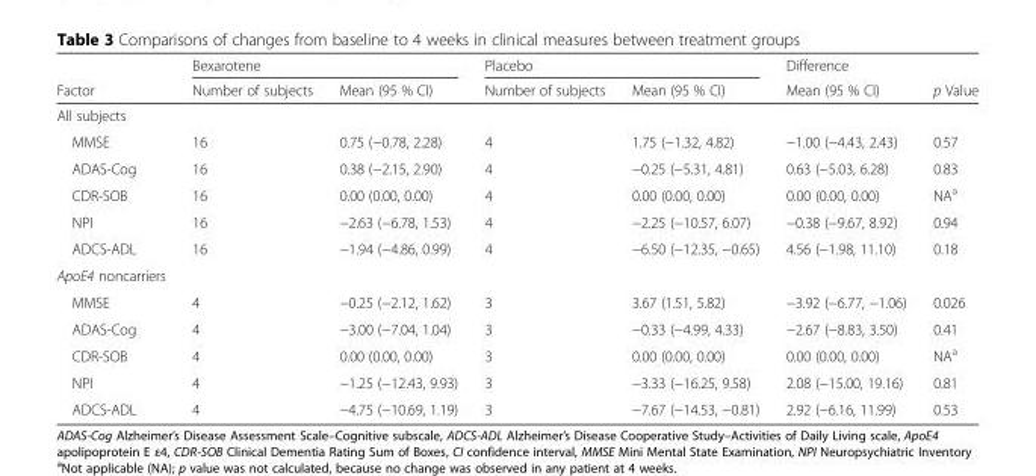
<table><thead><tr><td rowspan="2">Factor</td><td colspan="2">Bexarotene</td><td colspan="2">Placebo</td><td rowspan="2">Difference Mean (95 % CI)</td><td rowspan="2">p Value</td></tr><tr><td>Number of subjects</td><td>Mean (95 % CI)</td><td>Number of subjects</td><td>Mean (95 % CI)</td></tr></thead><tbody><tr><td colspan="7">All subjects</td></tr><tr><td>MMSE</td><td>16</td><td>0.75 (−0.78, 2.28)</td><td>4</td><td>1.75 (−1.32, 4.82)</td><td>−1.00 (−4.43, 2.43)</td><td>0.57</td></tr><tr><td>ADAS-Cog</td><td>16</td><td>0.38 (−2.15, 2.90)</td><td>4</td><td>−0.25 (−5.31, 4.81)</td><td>0.63 (−5.03, 6.28)</td><td>0.83</td></tr><tr><td>CDR-SOB</td><td>16</td><td>0.00 (0.00, 0.00)</td><td>4</td><td>0.00 (0.00, 0.00)</td><td>0.00 (0.00, 0.00)</td><td>NA<sup>a</sup></td></tr><tr><td>NPI</td><td>16</td><td>−2.63 (−6.78, 1.53)</td><td>4</td><td>−2.25 (−10.57, 6.07)</td><td>−0.38 (−9.67, 8.92)</td><td>0.94</td></tr><tr><td>ADCS-ADL</td><td>16</td><td>−1.94 (−4.86, 0.99)</td><td>4</td><td>−6.50 (−12.35, −0.65)</td><td>4.56 (−1.98, 11.10)</td><td>0.18</td></tr><tr><td colspan="7">ApoE4 noncarriers</td></tr><tr><td>MMSE</td><td>4</td><td>−0.25 (−2.12, 1.62)</td><td>3</td><td>3.67 (1.51, 5.82)</td><td>−3.92 (−6.77, −1.06)</td><td>0.026</td></tr><tr><td>ADAS-Cog</td><td>4</td><td>−3.00 (−7.04, 1.04)</td><td>3</td><td>−0.33 (−4.99, 4.33)</td><td>−2.67 (−8.83, 3.50)</td><td>0.41</td></tr><tr><td>CDR-SOB</td><td>4</td><td>0.00 (0.00, 0.00)</td><td>3</td><td>0.00 (0.00, 0.00)</td><td>0.00 (0.00, 0.00)</td><td>NA<sup>a</sup></td></tr><tr><td>NPI</td><td>4</td><td>−1.25 (−12.43, 9.93)</td><td>3</td><td>−3.33 (−16.25, 9.58)</td><td>2.08 (−15.00, 19.16)</td><td>0.81</td></tr><tr><td>ADCS-ADL</td><td>4</td><td>−4.75 (−10.69, 1.19)</td><td>3</td><td>−7.67 (−14.53, −0.81)</td><td>2.92 (−6.16, 11.99)</td><td>0.53</td></tr></tbody></table>